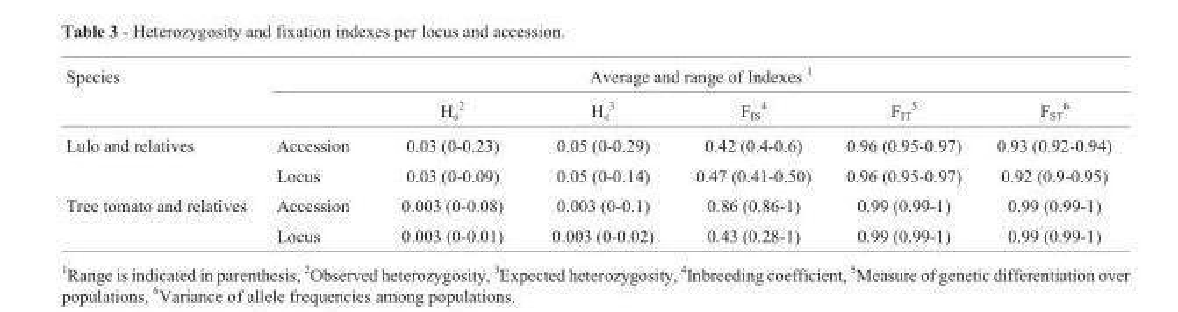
<table><thead><tr><td rowspan="2">Species</td><td colspan="6">Average and range of Indexes <sup>1</sup></td></tr><tr><td></td><td>H<sub>o</sub> <sup>2</sup></td><td>H<sub>e</sub> <sup>3</sup></td><td>F<sub>IS</sub> <sup>4</sup></td><td>F<sub>IT</sub> <sup>5</sup></td><td>F<sub>ST</sub> <sup>6</sup></td></tr></thead><tbody><tr><td rowspan="2">Lulo and relatives</td><td>Accession</td><td>0.03 (0-0.23)</td><td>0.05 (0-0.29)</td><td>0.42 (0.4-0.6)</td><td>0.96 (0.95-0.97)</td><td>0.93 (0.92-0.94)</td></tr><tr><td>Locus</td><td>0.03 (0-0.09)</td><td>0.05 (0-0.14)</td><td>0.47 (0.41-0.50)</td><td>0.96 (0.95-0.97)</td><td>0.92 (0.9-0.95)</td></tr><tr><td rowspan="2">Tree tomato and relatives</td><td>Accession</td><td>0.003 (0-0.08)</td><td>0.003 (0-0.1)</td><td>0.86 (0.86-1)</td><td>0.99 (0.99-1)</td><td>0.99 (0.99-1)</td></tr><tr><td>Locus</td><td>0.003 (0-0.01)</td><td>0.003 (0-0.02)</td><td>0.43 (0.28-1)</td><td>0.99 (0.99-1)</td><td>0.99 (0.99-1)</td></tr></tbody></table>